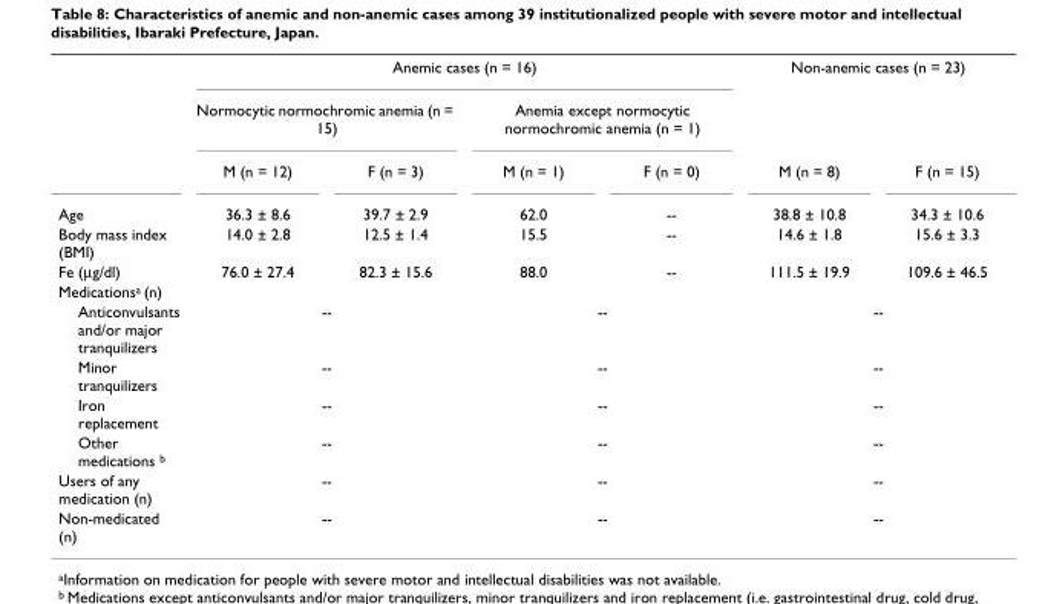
<table><thead><tr><td rowspan="3"></td><td colspan="4">Anemic cases (n = 16)</td><td colspan="2">Non-anemic cases (n = 23)</td></tr><tr><td colspan="2">Normocytic normochromic anemia (n = 15)</td><td colspan="2">Anemia except normocytic normochromic anemia (n = 1)</td><td rowspan="2">M (n = 8)</td><td rowspan="2">F (n = 15)</td></tr><tr><td>M (n = 12)</td><td>F (n = 3)</td><td>M (n = 1)</td><td>F (n = 0)</td></tr></thead><tbody><tr><td>Age</td><td>36.3 ± 8.6</td><td>39.7 ± 2.9</td><td>62.0</td><td>--</td><td>38.8 ± 10.8</td><td>34.3 ± 10.6</td></tr><tr><td>Body mass index (BMI)</td><td>14.0 ± 2.8</td><td>12.5 ± 1.4</td><td>15.5</td><td>--</td><td>14.6 ± 1.8</td><td>15.6 ± 3.3</td></tr><tr><td>Fe (μg/dl)</td><td>76.0 ± 27.4</td><td>82.3 ± 15.6</td><td>88.0</td><td>--</td><td>111.5 ± 19.9</td><td>109.6 ± 46.5</td></tr><tr><td colspan="7">Medicationsa (n)</td></tr><tr><td>Anticonvulsants and/or major tranquilizers</td><td colspan="2">--</td><td colspan="2">--</td><td colspan="2">--</td></tr><tr><td>Minor tranquilizers</td><td colspan="2">--</td><td colspan="2">--</td><td colspan="2">--</td></tr><tr><td>Iron replacement</td><td colspan="2">--</td><td colspan="2">--</td><td colspan="2">--</td></tr><tr><td>Other medications b</td><td colspan="2">--</td><td colspan="2">--</td><td colspan="2">--</td></tr><tr><td>Users of any medication (n)</td><td colspan="2">--</td><td colspan="2">--</td><td colspan="2">--</td></tr><tr><td>Non-medicated (n)</td><td colspan="2">--</td><td colspan="2">--</td><td colspan="2">--</td></tr></tbody></table>